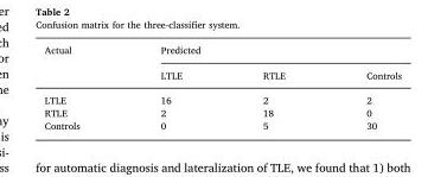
<table><thead><tr><td rowspan="2">Actual</td><td colspan="3">Predicted</td></tr><tr><td>LTLE</td><td>RTLE</td><td>Controls</td></tr></thead><tbody><tr><td>LTLE</td><td>16</td><td>2</td><td>2</td></tr><tr><td>RTLE</td><td>2</td><td>18</td><td>0</td></tr><tr><td>Controls</td><td>0</td><td>5</td><td>30</td></tr></tbody></table>